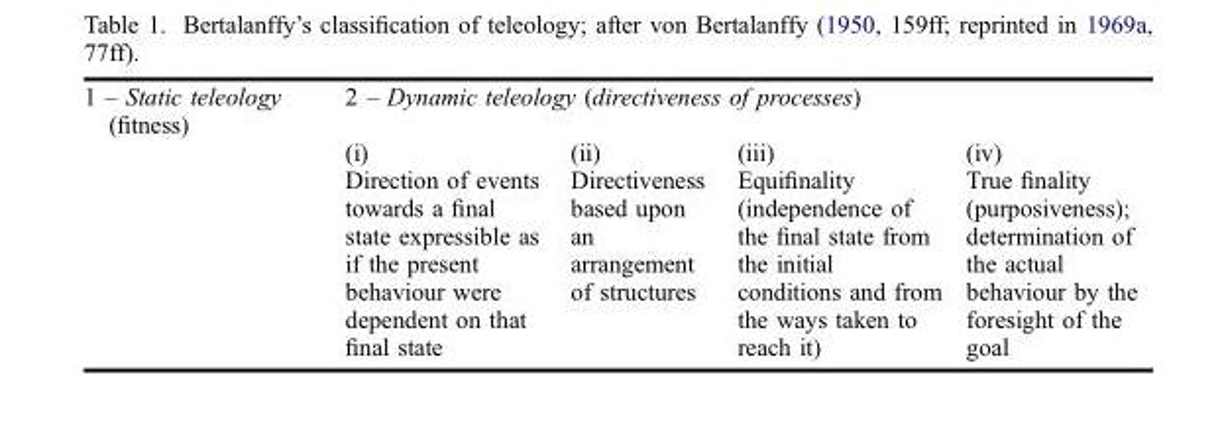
<table><tbody><tr><td rowspan="3">1 – Static teleology (fitness)</td><td colspan="4">2 – Dynamic teleology (directiveness of processes)</td></tr><tr><td>(i)</td><td>(ii)</td><td>(iii)</td><td>(iv)</td></tr><tr><td>Direction of events towards a final state expressible as if the present behaviour were dependent on that final state</td><td>Directiveness based upon an arrangement of structures</td><td>Equifinality (independence of the final state from the initial conditions and from the ways taken to reach it)</td><td>True finality (purposiveness); determination of the actual behaviour by the foresight of the goal</td></tr></tbody></table>